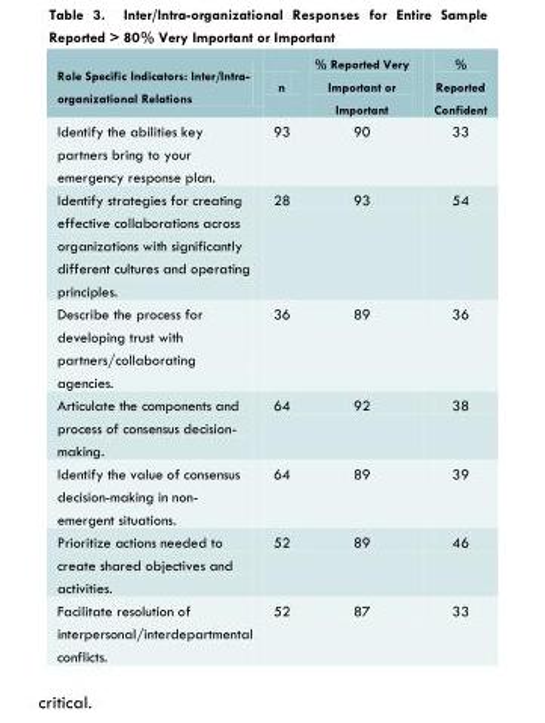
<table><thead><tr><td>Role Specific Indicators: Inter/Intra- organizational Relations</td><td>n</td><td>% Reported Very Important or Important</td><td>% Reported Confident</td></tr></thead><tbody><tr><td>Identify the abilities key partners bring to your emergency response plan.</td><td>93</td><td>90</td><td>33</td></tr><tr><td>Identify strategies for creating effective collaborations across organizations with significantly different cultures and operating principles.</td><td>28</td><td>93</td><td>54</td></tr><tr><td>Describe the process for developing trust with partners/collaborating agencies.</td><td>36</td><td>89</td><td>36</td></tr><tr><td>Articulate the components and process of consensus decision- making.</td><td>64</td><td>92</td><td>38</td></tr><tr><td>Identify the value of consensus decision-making in non- emergent situations.</td><td>64</td><td>89</td><td>39</td></tr><tr><td>Prioritize actions needed to create shared objectives and activities.</td><td>52</td><td>89</td><td>46</td></tr><tr><td>Facilitate resolution of interpersonal/interdepartmental conflicts.</td><td>52</td><td>87</td><td>33</td></tr></tbody></table>